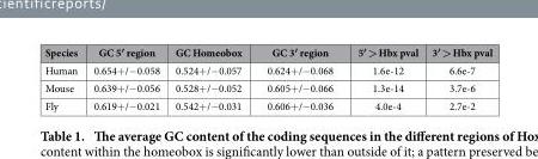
<table><thead><tr><td>Species</td><td>GC 5′ region</td><td>GC Homeobox</td><td>GC 3′ region</td><td>5′ &gt; Hbx pval</td><td>3′ &gt; Hbx pval</td></tr></thead><tbody><tr><td>Human</td><td>0.654+ /− 0.058</td><td>0.524+ /− 0.057</td><td>0.624+ /− 0.068</td><td>1.6e-12</td><td>6.6e-7</td></tr><tr><td>Mouse</td><td>0.639+ /− 0.056</td><td>0.528+ /− 0.052</td><td>0.605+ /− 0.066</td><td>1.3e-14</td><td>3.7e-6</td></tr><tr><td>Fly</td><td>0.619+ /− 0.021</td><td>0.542+ /− 0.031</td><td>0.606+ /− 0.036</td><td>4.0e-4</td><td>2.7e-2</td></tr></tbody></table>